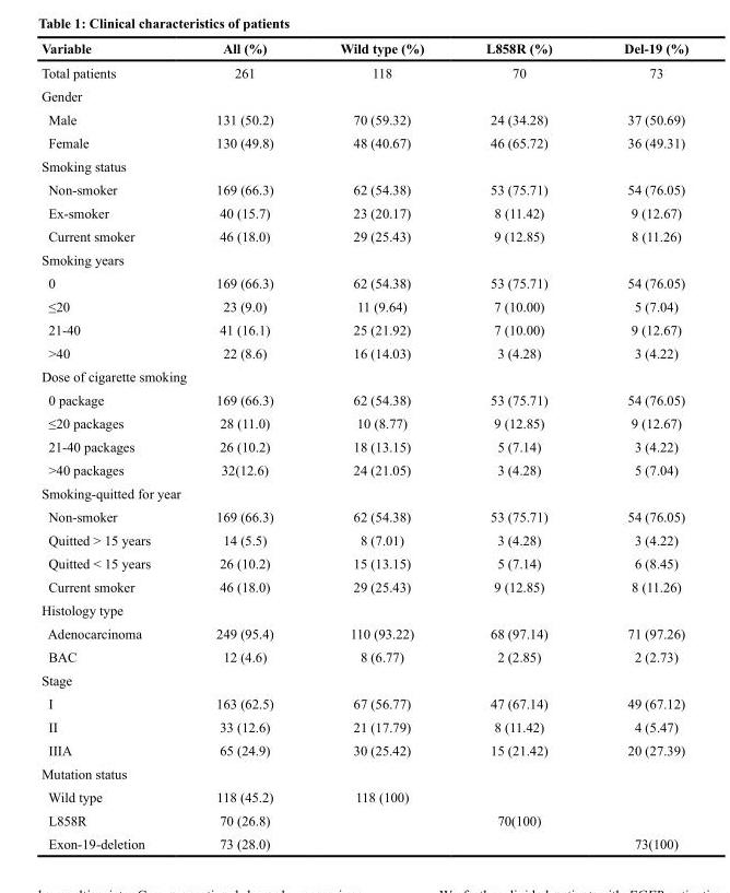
<table><thead><tr><td>Variable</td><td>All (%)</td><td>Wild type (%)</td><td>L858R (%)</td><td>Del-19 (%)</td></tr></thead><tbody><tr><td>Total patients</td><td>261</td><td>118</td><td>70</td><td>73</td></tr><tr><td colspan="5">Gender</td></tr><tr><td>Male</td><td>131 (50.2)</td><td>70 (59.32)</td><td>24 (34.28)</td><td>37 (50.69)</td></tr><tr><td>Female</td><td>130 (49.8)</td><td>48 (40.67)</td><td>46 (65.72)</td><td>36 (49.31)</td></tr><tr><td colspan="5">Smoking status</td></tr><tr><td>Non-smoker</td><td>169 (66.3)</td><td>62 (54.38)</td><td>53 (75.71)</td><td>54 (76.05)</td></tr><tr><td>Ex-smoker</td><td>40 (15.7)</td><td>23 (20.17)</td><td>8 (11.42)</td><td>9 (12.67)</td></tr><tr><td>Current smoker</td><td>46 (18.0)</td><td>29 (25.43)</td><td>9 (12.85)</td><td>8 (11.26)</td></tr><tr><td colspan="5">Smoking years</td></tr><tr><td>0</td><td>169 (66.3)</td><td>62 (54.38)</td><td>53 (75.71)</td><td>54 (76.05)</td></tr><tr><td>≤20</td><td>23 (9.0)</td><td>11 (9.64)</td><td>7 (10.00)</td><td>5 (7.04)</td></tr><tr><td>21-40</td><td>41 (16.1)</td><td>25 (21.92)</td><td>7 (10.00)</td><td>9 (12.67)</td></tr><tr><td>&gt;40</td><td>22 (8.6)</td><td>16 (14.03)</td><td>3 (4.28)</td><td>3 (4.22)</td></tr><tr><td colspan="5">Dose of cigarette smoking</td></tr><tr><td>0 package</td><td>169 (66.3)</td><td>62 (54.38)</td><td>53 (75.71)</td><td>54 (76.05)</td></tr><tr><td>≤20 packages</td><td>28 (11.0)</td><td>10 (8.77)</td><td>9 (12.85)</td><td>9 (12.67)</td></tr><tr><td>21-40 packages</td><td>26 (10.2)</td><td>18 (13.15)</td><td>5 (7.14)</td><td>3 (4.22)</td></tr><tr><td>&gt;40 packages</td><td>32(12.6)</td><td>24 (21.05)</td><td>3 (4.28)</td><td>5 (7.04)</td></tr><tr><td colspan="5">Smoking-quitted for year</td></tr><tr><td>Non-smoker</td><td>169 (66.3)</td><td>62 (54.38)</td><td>53 (75.71)</td><td>54 (76.05)</td></tr><tr><td>Quitted &gt; 15 years</td><td>14 (5.5)</td><td>8 (7.01)</td><td>3 (4.28)</td><td>3 (4.22)</td></tr><tr><td>Quitted &lt; 15 years</td><td>26 (10.2)</td><td>15 (13.15)</td><td>5 (7.14)</td><td>6 (8.45)</td></tr><tr><td>Current smoker</td><td>46 (18.0)</td><td>29 (25.43)</td><td>9 (12.85)</td><td>8 (11.26)</td></tr><tr><td colspan="5">Histology type</td></tr><tr><td>Adenocarcinoma</td><td>249 (95.4)</td><td>110 (93.22)</td><td>68 (97.14)</td><td>71 (97.26)</td></tr><tr><td>BAC</td><td>12 (4.6)</td><td>8 (6.77)</td><td>2 (2.85)</td><td>2 (2.73)</td></tr><tr><td colspan="5">Stage</td></tr><tr><td>I</td><td>163 (62.5)</td><td>67 (56.77)</td><td>47 (67.14)</td><td>49 (67.12)</td></tr><tr><td>II</td><td>33 (12.6)</td><td>21 (17.79)</td><td>8 (11.42)</td><td>4 (5.47)</td></tr><tr><td>IIIA</td><td>65 (24.9)</td><td>30 (25.42)</td><td>15 (21.42)</td><td>20 (27.39)</td></tr><tr><td colspan="5">Mutation status</td></tr><tr><td>Wild type</td><td>118 (45.2)</td><td>118 (100)</td><td></td><td></td></tr><tr><td>L858R</td><td>70 (26.8)</td><td></td><td>70(100)</td><td></td></tr><tr><td>Exon-19-deletion</td><td>73 (28.0)</td><td></td><td></td><td>73(100)</td></tr></tbody></table>